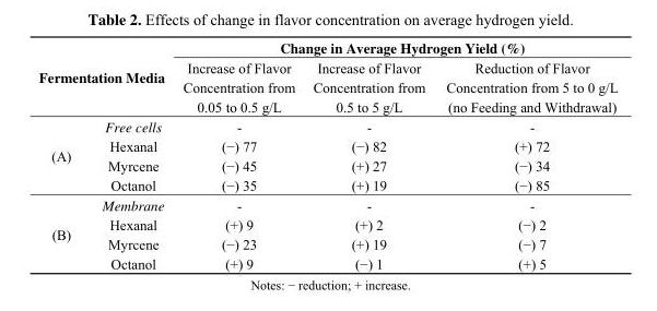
<table><tbody><tr><td rowspan="2" colspan="2">Fermentation Media</td><td colspan="3">Change in Average Hydrogen Yield (%)</td></tr><tr><td>Increase of Flavor Concentration from 0.05 to 0.5 g/L</td><td>Increase of Flavor Concentration from 0.5 to 5 g/L</td><td>Reduction of Flavor Concentration from 5 to 0 g/L (no Feeding and Withdrawal)</td></tr><tr><td rowspan="4">(A)</td><td>Free cells</td><td>-</td><td>-</td><td>-</td></tr><tr><td>Hexanal</td><td>(−) 77</td><td>(−) 82</td><td>(+) 72</td></tr><tr><td>Myrcene</td><td>(−) 45</td><td>(+) 27</td><td>(−) 34</td></tr><tr><td>Octanol</td><td>(−) 35</td><td>(+) 19</td><td>(−) 85</td></tr><tr><td rowspan="4">(B)</td><td>Membrane</td><td>-</td><td>-</td><td>-</td></tr><tr><td>Hexanal</td><td>(+) 9</td><td>(+) 2</td><td>(−) 2</td></tr><tr><td>Myrcene</td><td>(−) 23</td><td>(+) 19</td><td>(−) 7</td></tr><tr><td>Octanol</td><td>(+) 9</td><td>(−) 1</td><td>(+) 5</td></tr></tbody></table>